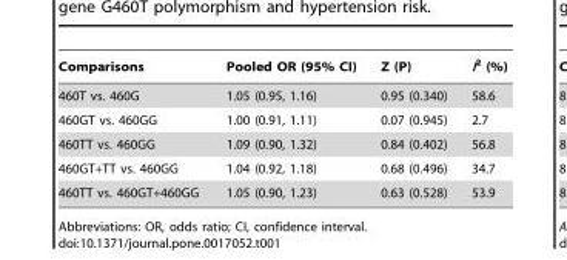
<table><thead><tr><td>Comparisons</td><td>Pooled OR (95% CI)</td><td>Z (P)</td><td>I<sup>2</sup> (%)</td></tr></thead><tbody><tr><td>460T vs. 460G</td><td>1.05 (0.95, 1.16)</td><td>0.95 (0.340)</td><td>58.6</td></tr><tr><td>460GT vs. 460GG</td><td>1.00 (0.91, 1.11)</td><td>0.07 (0.945)</td><td>2.7</td></tr><tr><td>460TT vs. 460GG</td><td>1.09 (0.90, 1.32)</td><td>0.84 (0.402)</td><td>56.8</td></tr><tr><td>460GT+TT vs. 460GG</td><td>1.04 (0.92, 1.18)</td><td>0.68 (0.496)</td><td>34.7</td></tr><tr><td>460TT vs. 460GT+460GG</td><td>1.05 (0.90, 1.23)</td><td>0.63 (0.528)</td><td>53.9</td></tr></tbody></table>